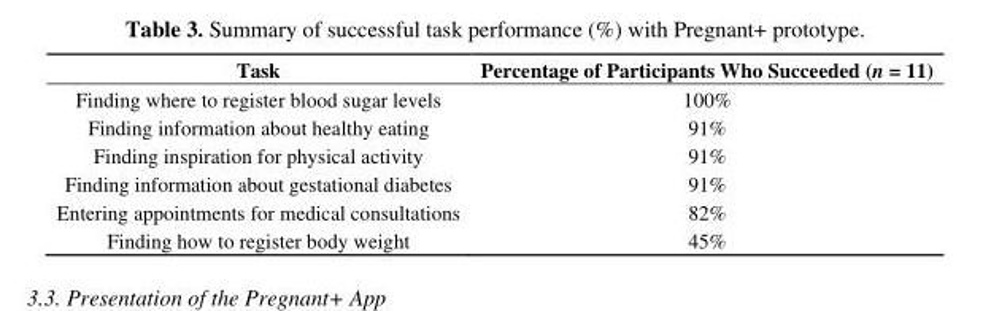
<table><thead><tr><td>Task</td><td>Percentage of Participants Who Succeeded (n = 11)</td></tr></thead><tbody><tr><td>Finding where to register blood sugar levels</td><td>100%</td></tr><tr><td>Finding information about healthy eating</td><td>91%</td></tr><tr><td>Finding inspiration for physical activity</td><td>91%</td></tr><tr><td>Finding information about gestational diabetes</td><td>91%</td></tr><tr><td>Entering appointments for medical consultations</td><td>82%</td></tr><tr><td>Finding how to register body weight</td><td>45%</td></tr></tbody></table>